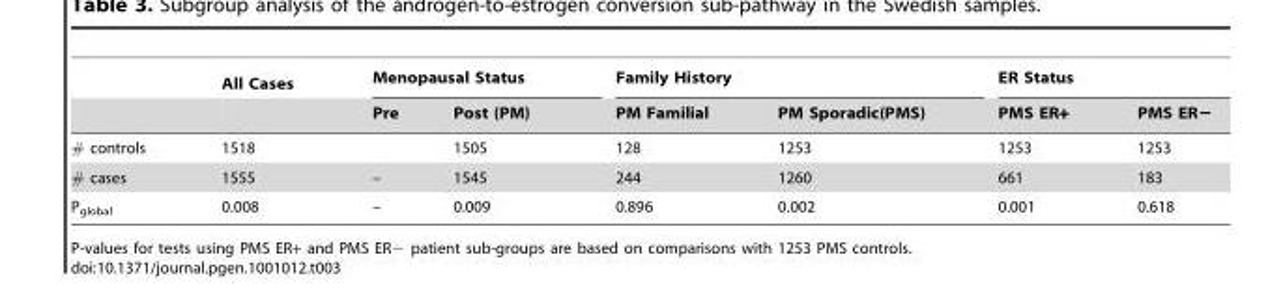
<table><thead><tr><td rowspan="2"></td><td rowspan="2">All Cases</td><td colspan="2">Menopausal Status</td><td colspan="2">Family History</td><td colspan="2">ER Status</td></tr><tr><td>Pre</td><td>Post (PM)</td><td>PM Familial</td><td>PM Sporadic(PMS)</td><td>PMS ER+</td><td>PMS ER−</td></tr></thead><tbody><tr><td># controls</td><td>1518</td><td></td><td>1505</td><td>128</td><td>1253</td><td>1253</td><td>1253</td></tr><tr><td># cases</td><td>1555</td><td>–</td><td>1545</td><td>244</td><td>1260</td><td>661</td><td>183</td></tr><tr><td>P<sub>global</sub></td><td>0.008</td><td>–</td><td>0.009</td><td>0.896</td><td>0.002</td><td>0.001</td><td>0.618</td></tr></tbody></table>